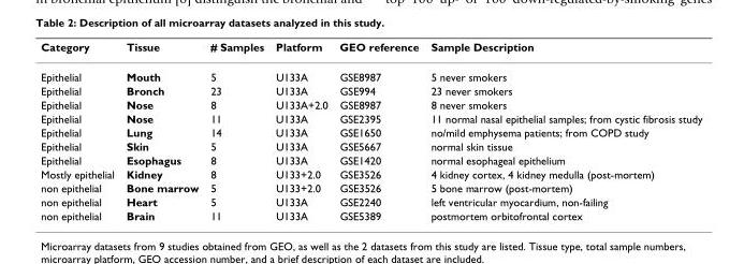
<table><thead><tr><td>Category</td><td>Tissue</td><td># Samples</td><td>Platform</td><td>GEO reference</td><td>Sample Description</td></tr></thead><tbody><tr><td>Epithelial</td><td>Mouth</td><td>5</td><td>U133A</td><td>GSE8987</td><td>5 never smokers</td></tr><tr><td>Epithelial</td><td>Bronch</td><td>23</td><td>U133A</td><td>GSE994</td><td>23 never smokers</td></tr><tr><td>Epithelial</td><td>Nose</td><td>8</td><td>U133A+2.0</td><td>GSE8987</td><td>8 never smokers</td></tr><tr><td>Epithelial</td><td>Nose</td><td>11</td><td>U133A</td><td>GSE2395</td><td>11 normal nasal epithelial samples; from cystic fibrosis study</td></tr><tr><td>Epithelial</td><td>Lung</td><td>14</td><td>U133A</td><td>GSE1650</td><td>no/mild emphysema patients; from COPD study</td></tr><tr><td>Epithelial</td><td>Skin</td><td>5</td><td>U133A</td><td>GSE5667</td><td>normal skin tissue</td></tr><tr><td>Epithelial</td><td>Esophagus</td><td>8</td><td>U133A</td><td>GSE1420</td><td>normal esophageal epithelium</td></tr><tr><td>Mostly epithelial</td><td>Kidney</td><td>8</td><td>U133+2.0</td><td>GSE3526</td><td>4 kidney cortex, 4 kidney medulla (post-mortem)</td></tr><tr><td>non epithelial</td><td>Bone marrow</td><td>5</td><td>U133+2.0</td><td>GSE3526</td><td>5 bone marrow (post-mortem)</td></tr><tr><td>non epithelial</td><td>Heart</td><td>5</td><td>U133A</td><td>GSE2240</td><td>left ventricular myocardium, non-failing</td></tr><tr><td>non epithelial</td><td>Brain</td><td>11</td><td>U133A</td><td>GSE5389</td><td>postmortem orbitofrontal cortex</td></tr></tbody></table>